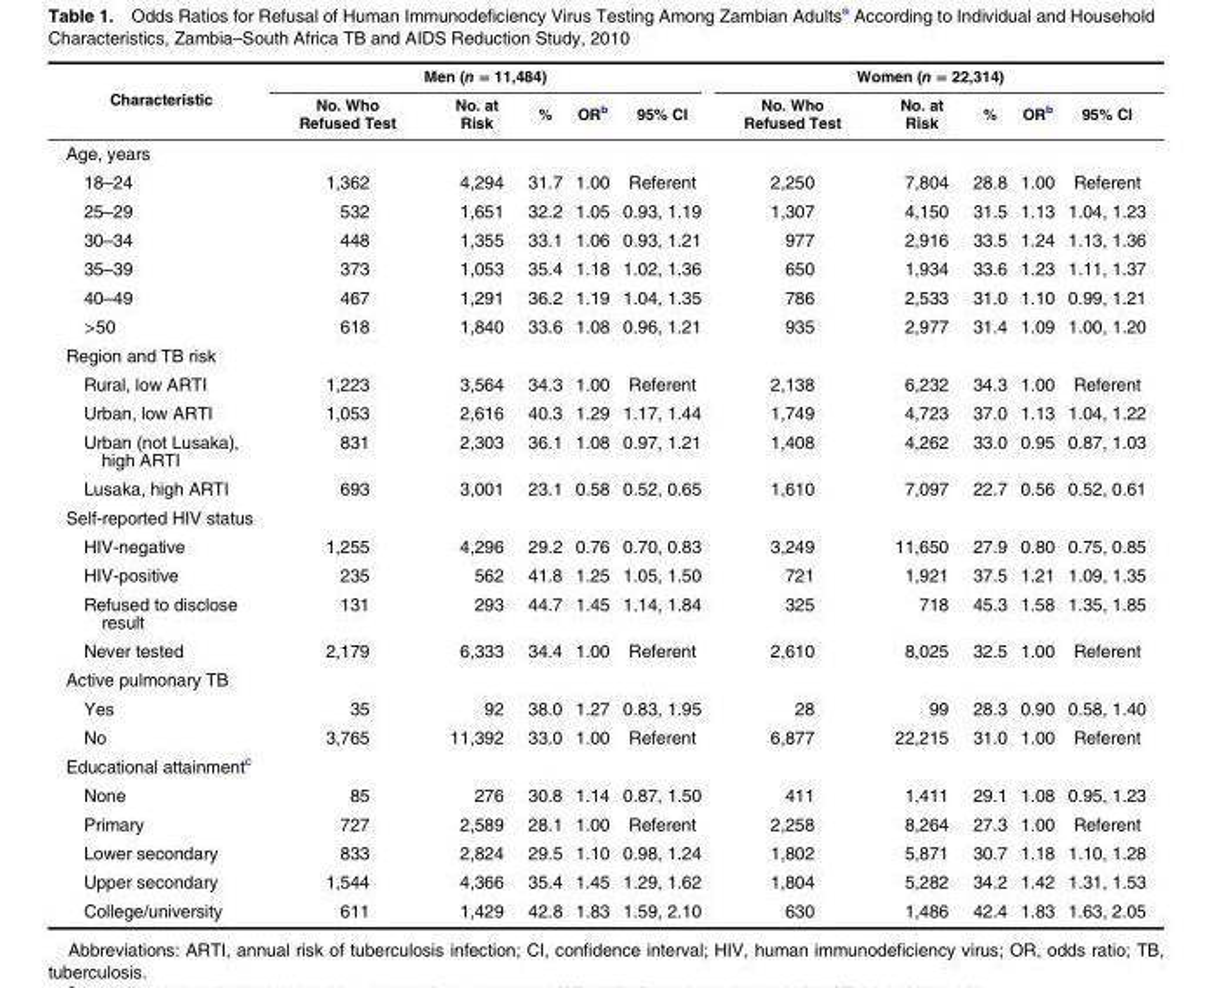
<table><thead><tr><td rowspan="2">Characteristic</td><td colspan="5">Men (n = 11,484)</td><td colspan="5">Women (n = 22,314)</td></tr><tr><td>No. Who Refused Test</td><td>No. at Risk</td><td>%</td><td>OR<sup>b</sup></td><td>95% CI</td><td>No. Who Refused Test</td><td>No. at Risk</td><td>%</td><td>OR<sup>b</sup></td><td>95% CI</td></tr></thead><tbody><tr><td colspan="11">Age, years</td></tr><tr><td>18–24</td><td>1,362</td><td>4,294</td><td>31.7</td><td>1.00</td><td>Referent</td><td>2,250</td><td>7,804</td><td>28.8</td><td>1.00</td><td>Referent</td></tr><tr><td>25–29</td><td>532</td><td>1,651</td><td>32.2</td><td>1.05</td><td>0.93, 1.19</td><td>1,307</td><td>4,150</td><td>31.5</td><td>1.13</td><td>1.04, 1.23</td></tr><tr><td>30–34</td><td>448</td><td>1,355</td><td>33.1</td><td>1.06</td><td>0.93, 1.21</td><td>977</td><td>2,916</td><td>33.5</td><td>1.24</td><td>1.13, 1.36</td></tr><tr><td>35–39</td><td>373</td><td>1,053</td><td>35.4</td><td>1.18</td><td>1.02, 1.36</td><td>650</td><td>1,934</td><td>33.6</td><td>1.23</td><td>1.11, 1.37</td></tr><tr><td>40–49</td><td>467</td><td>1,291</td><td>36.2</td><td>1.19</td><td>1.04, 1.35</td><td>786</td><td>2,533</td><td>31.0</td><td>1.10</td><td>0.99, 1.21</td></tr><tr><td>&gt;50</td><td>618</td><td>1,840</td><td>33.6</td><td>1.08</td><td>0.96, 1.21</td><td>935</td><td>2,977</td><td>31.4</td><td>1.09</td><td>1.00, 1.20</td></tr><tr><td colspan="11">Region and TB risk</td></tr><tr><td>Rural, low ARTI</td><td>1,223</td><td>3,564</td><td>34.3</td><td>1.00</td><td>Referent</td><td>2,138</td><td>6,232</td><td>34.3</td><td>1.00</td><td>Referent</td></tr><tr><td>Urban, low ARTI</td><td>1,053</td><td>2,616</td><td>40.3</td><td>1.29</td><td>1.17, 1.44</td><td>1,749</td><td>4,723</td><td>37.0</td><td>1.13</td><td>1.04, 1.22</td></tr><tr><td>Urban (not Lusaka), high ARTI</td><td>831</td><td>2,303</td><td>36.1</td><td>1.08</td><td>0.97, 1.21</td><td>1,408</td><td>4,262</td><td>33.0</td><td>0.95</td><td>0.87, 1.03</td></tr><tr><td>Lusaka, high ARTI</td><td>693</td><td>3,001</td><td>23.1</td><td>0.58</td><td>0.52, 0.65</td><td>1,610</td><td>7,097</td><td>22.7</td><td>0.56</td><td>0.52, 0.61</td></tr><tr><td colspan="11">Self-reported HIV status</td></tr><tr><td>HIV-negative</td><td>1,255</td><td>4,296</td><td>29.2</td><td>0.76</td><td>0.70, 0.83</td><td>3,249</td><td>11,650</td><td>27.9</td><td>0.80</td><td>0.75, 0.85</td></tr><tr><td>HIV-positive</td><td>235</td><td>562</td><td>41.8</td><td>1.25</td><td>1.05, 1.50</td><td>721</td><td>1,921</td><td>37.5</td><td>1.21</td><td>1.09, 1.35</td></tr><tr><td>Refused to disclose result</td><td>131</td><td>293</td><td>44.7</td><td>1.45</td><td>1.14, 1.84</td><td>325</td><td>718</td><td>45.3</td><td>1.58</td><td>1.35, 1.85</td></tr><tr><td>Never tested</td><td>2,179</td><td>6,333</td><td>34.4</td><td>1.00</td><td>Referent</td><td>2,610</td><td>8,025</td><td>32.5</td><td>1.00</td><td>Referent</td></tr><tr><td colspan="11">Active pulmonary TB</td></tr><tr><td>Yes</td><td>35</td><td>92</td><td>38.0</td><td>1.27</td><td>0.83, 1.95</td><td>28</td><td>99</td><td>28.3</td><td>0.90</td><td>0.58, 1.40</td></tr><tr><td>No</td><td>3,765</td><td>11,392</td><td>33.0</td><td>1.00</td><td>Referent</td><td>6,877</td><td>22,215</td><td>31.0</td><td>1.00</td><td>Referent</td></tr><tr><td colspan="11">Educational attainment<sup>c</sup></td></tr><tr><td>None</td><td>85</td><td>276</td><td>30.8</td><td>1.14</td><td>0.87, 1.50</td><td>411</td><td>1,411</td><td>29.1</td><td>1.08</td><td>0.95, 1.23</td></tr><tr><td>Primary</td><td>727</td><td>2,589</td><td>28.1</td><td>1.00</td><td>Referent</td><td>2,258</td><td>8,264</td><td>27.3</td><td>1.00</td><td>Referent</td></tr><tr><td>Lower secondary</td><td>833</td><td>2,824</td><td>29.5</td><td>1.10</td><td>0.98, 1.24</td><td>1,802</td><td>5,871</td><td>30.7</td><td>1.18</td><td>1.10, 1.28</td></tr><tr><td>Upper secondary</td><td>1,544</td><td>4,366</td><td>35.4</td><td>1.45</td><td>1.29, 1.62</td><td>1,804</td><td>5,282</td><td>34.2</td><td>1.42</td><td>1.31, 1.53</td></tr><tr><td>College/university</td><td>611</td><td>1,429</td><td>42.8</td><td>1.83</td><td>1.59, 2.10</td><td>630</td><td>1,486</td><td>42.4</td><td>1.83</td><td>1.63, 2.05</td></tr></tbody></table>